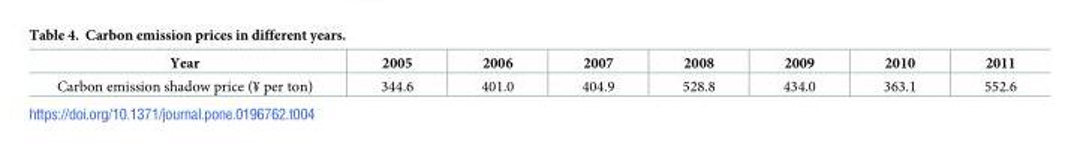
<table><thead><tr><td>Year</td><td>2005</td><td>2006</td><td>2007</td><td>2008</td><td>2009</td><td>2010</td><td>2011</td></tr></thead><tbody><tr><td>Carbon emission shadow price (¥ per ton)</td><td>344.6</td><td>401.0</td><td>404.9</td><td>528.8</td><td>434.0</td><td>363.1</td><td>552.6</td></tr></tbody></table>